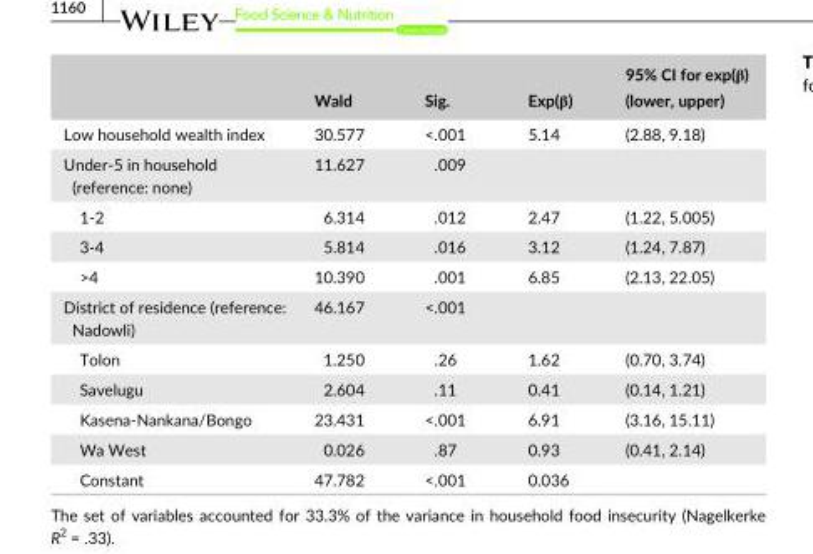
<table><thead><tr><td rowspan="2"></td><td rowspan="2">Wald</td><td rowspan="2">Sig.</td><td rowspan="2">Exp(β)</td><td rowspan="2">95% CI for exp(β) (lower, upper)</td></tr><tr></tr></thead><tbody><tr><td>Low household wealth index</td><td>30.577</td><td>&lt;.001</td><td>5.14</td><td>(2.88, 9.18)</td></tr><tr><td>Under- 5 in household (reference: none)</td><td>11.627</td><td>.009</td><td></td><td></td></tr><tr><td>1- 2</td><td>6.314</td><td>.012</td><td>2.47</td><td>(1.22, 5.005)</td></tr><tr><td>3- 4</td><td>5.814</td><td>.016</td><td>3.12</td><td>(1.24, 7.87)</td></tr><tr><td>&gt;4</td><td>10.390</td><td>.001</td><td>6.85</td><td>(2.13, 22.05)</td></tr><tr><td>District of residence (reference: Nadowli)</td><td>46.167</td><td>&lt;.001</td><td></td><td></td></tr><tr><td>Tolon</td><td>1.250</td><td>.26</td><td>1.62</td><td>(0.70, 3.74)</td></tr><tr><td>Savelugu</td><td>2.604</td><td>.11</td><td>0.41</td><td>(0.14, 1.21)</td></tr><tr><td>Kasena- Nankana/Bongo</td><td>23.431</td><td>&lt;.001</td><td>6.91</td><td>(3.16, 15.11)</td></tr><tr><td>Wa West</td><td>0.026</td><td>.87</td><td>0.93</td><td>(0.41, 2.14)</td></tr><tr><td>Constant</td><td>47.782</td><td>&lt;.001</td><td>0.036</td><td></td></tr></tbody></table>